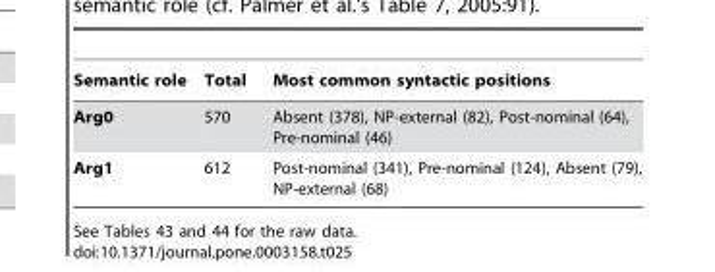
<table><thead><tr><td>Semantic role</td><td>Total</td><td>Most common syntactic positions</td></tr></thead><tbody><tr><td>Arg0</td><td>570</td><td>Absent (378), NP-external (82), Post-nominal (64), Pre-nominal (46)</td></tr><tr><td>Arg1</td><td>612</td><td>Post-nominal (341), Pre-nominal (124), Absent (79), NP-external (68)</td></tr></tbody></table>